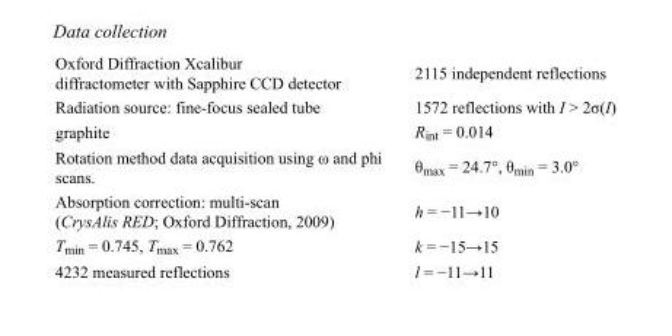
<table><tbody><tr><td>Oxford Diffraction Xcalibur diffractometer with Sapphire CCD detector</td><td>2115 independent reflections</td></tr><tr><td>Radiation source: fine-focus sealed tube</td><td>1572 reflections with I &gt; 2σ(I)</td></tr><tr><td>graphite</td><td>R<sub>int</sub> = 0.014</td></tr><tr><td>Rotation method data acquisition using ω and phi scans.</td><td>θ<sub>max</sub> = 24.7°, θ<sub>min</sub> = 3.0°</td></tr><tr><td>Absorption correction: multi-scan (CrysAlis RED; Oxford Diffraction, 2009)</td><td>h = −11→10</td></tr><tr><td>T<sub>min</sub> = 0.745, T<sub>max</sub> = 0.762</td><td>k = −15→15</td></tr><tr><td>4232 measured reflections</td><td>l = −11→11</td></tr></tbody></table>